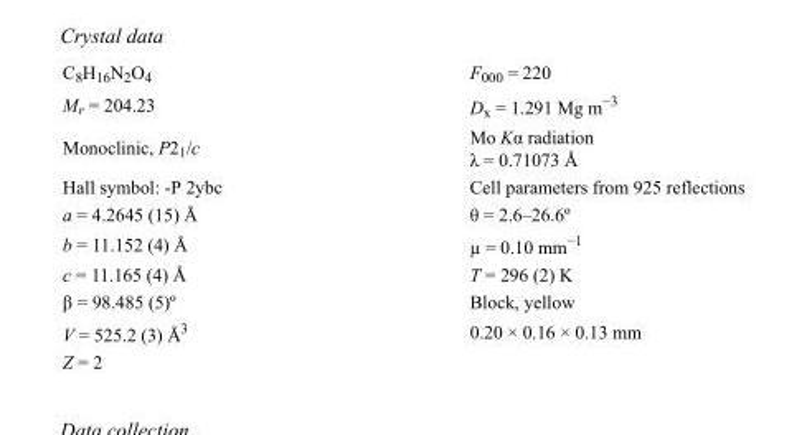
<table><tbody><tr><td>C<sub>8</sub>H<sub>16</sub>N<sub>2</sub>O<sub>4</sub></td><td>F<sub>000</sub> = 220</td></tr><tr><td>M<sub>r</sub> = 204.23</td><td>D<sub>x</sub> = 1.291 Mg m<sup>−3</sup></td></tr><tr><td>Monoclinic, P2<sub>1</sub>/c</td><td>Mo Kα radiation λ = 0.71073 Å</td></tr><tr><td>Hall symbol: -P 2ybc</td><td>Cell parameters from 925 reflections</td></tr><tr><td>a = 4.2645 (15) Å</td><td>θ = 2.6–26.6º</td></tr><tr><td>b = 11.152 (4) Å</td><td>µ = 0.10 mm<sup>−1</sup></td></tr><tr><td>c = 11.165 (4) Å</td><td>T = 296 (2) K</td></tr><tr><td>β = 98.485 (5)º</td><td>Block, yellow</td></tr><tr><td>V = 525.2 (3) Å<sup>3</sup></td><td>0.20 × 0.16 × 0.13 mm</td></tr><tr><td>Z = 2</td><td></td></tr></tbody></table>